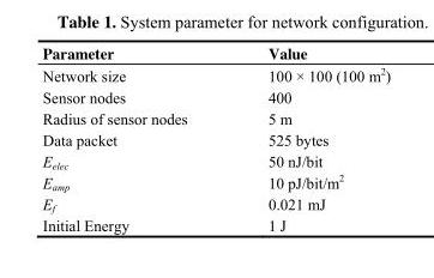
<table><thead><tr><td>Parameter</td><td>Value</td></tr></thead><tbody><tr><td>Network size</td><td>100 × 100 (100 m<sup>2</sup>)</td></tr><tr><td>Sensor nodes</td><td>400</td></tr><tr><td>Radius of sensor nodes</td><td>5 m</td></tr><tr><td>Data packet</td><td>525 bytes</td></tr><tr><td>E<sub>elec</sub></td><td>50 nJ/bit</td></tr><tr><td>E<sub>amp</sub></td><td>10 pJ/bit/m<sup>2</sup></td></tr><tr><td>E<sub>f</sub></td><td>0.021 mJ</td></tr><tr><td>Initial Energy</td><td>1 J</td></tr></tbody></table>